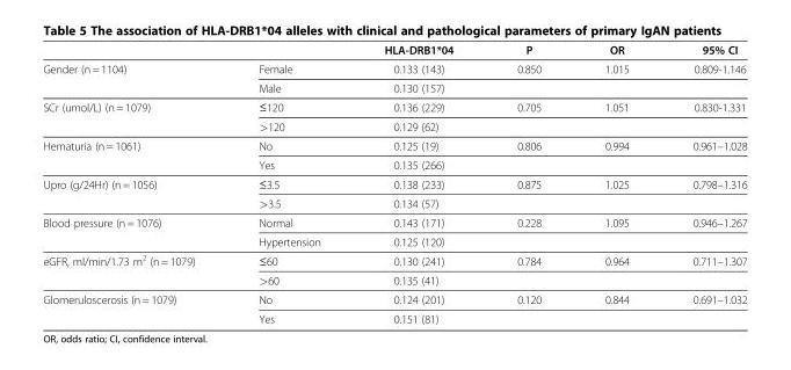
<table><thead><tr><td></td><td></td><td>HLA-DRB1*04</td><td>P</td><td>OR</td><td>95% CI</td></tr></thead><tbody><tr><td rowspan="2">Gender (n = 1104)</td><td>Female</td><td>0.133 (143)</td><td>0.850</td><td>1.015</td><td>0.809-1.146</td></tr><tr><td>Male</td><td>0.130 (157)</td><td></td><td></td><td></td></tr><tr><td rowspan="2">SCr (umol/L) (n = 1079)</td><td>≤120</td><td>0.136 (229)</td><td>0.705</td><td>1.051</td><td>0.830-1.331</td></tr><tr><td>&gt;120</td><td>0.129 (62)</td><td></td><td></td><td></td></tr><tr><td rowspan="2">Hematuria (n = 1061)</td><td>No</td><td>0.125 (19)</td><td>0.806</td><td>0.994</td><td>0.961–1.028</td></tr><tr><td>Yes</td><td>0.135 (266)</td><td></td><td></td><td></td></tr><tr><td rowspan="2">Upro (g/24Hr) (n = 1056)</td><td>≤3.5</td><td>0.138 (233)</td><td>0.875</td><td>1.025</td><td>0.798–1.316</td></tr><tr><td>&gt;3.5</td><td>0.134 (57)</td><td></td><td></td><td></td></tr><tr><td rowspan="2">Blood pressure (n = 1076)</td><td>Normal</td><td>0.143 (171)</td><td>0.228</td><td>1.095</td><td>0.946–1.267</td></tr><tr><td>Hypertension</td><td>0.125 (120)</td><td></td><td></td><td></td></tr><tr><td rowspan="2">eGFR, ml/min/1.73 m<sup>2</sup> (n = 1079)</td><td>≤60</td><td>0.130 (241)</td><td>0.784</td><td>0.964</td><td>0.711–1.307</td></tr><tr><td>&gt;60</td><td>0.135 (41)</td><td></td><td></td><td></td></tr><tr><td rowspan="2">Glomeruloscerosis (n = 1079)</td><td>No</td><td>0.124 (201)</td><td>0.120</td><td>0.844</td><td>0.691–1.032</td></tr><tr><td>Yes</td><td>0.151 (81)</td><td></td><td></td><td></td></tr></tbody></table>